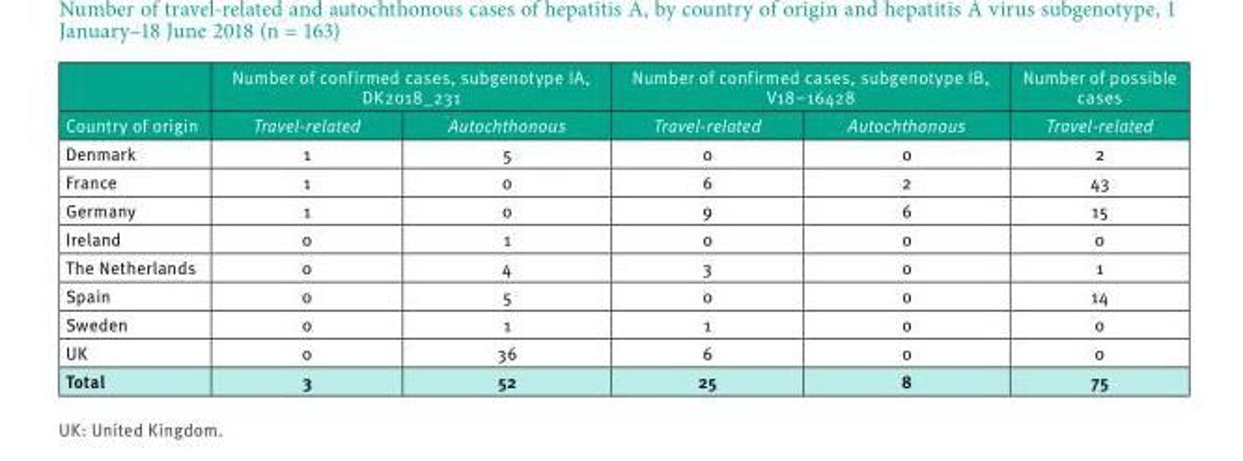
<table><thead><tr><td rowspan="2">Country of origin</td><td colspan="2">Number of confirmed cases, subgenotype IA, DK2018_231</td><td colspan="2">Number of confirmed cases, subgenotype IB, V18–16428</td><td rowspan="2">Number of possible cases Travel-related</td></tr><tr><td>Travel-related</td><td>Autochthonous</td><td>Travel-related</td><td>Autochthonous</td></tr></thead><tbody><tr><td>Denmark</td><td>1</td><td>5</td><td>0</td><td>0</td><td>2</td></tr><tr><td>France</td><td>1</td><td>0</td><td>6</td><td>2</td><td>43</td></tr><tr><td>Germany</td><td>1</td><td>0</td><td>9</td><td>6</td><td>15</td></tr><tr><td>Ireland</td><td>0</td><td>1</td><td>0</td><td>0</td><td>0</td></tr><tr><td>The Netherlands</td><td>0</td><td>4</td><td>3</td><td>0</td><td>1</td></tr><tr><td>Spain</td><td>0</td><td>5</td><td>0</td><td>0</td><td>14</td></tr><tr><td>Sweden</td><td>0</td><td>1</td><td>1</td><td>0</td><td>0</td></tr><tr><td>UK</td><td>0</td><td>36</td><td>6</td><td>0</td><td>0</td></tr><tr><td>Total</td><td>3</td><td>52</td><td>25</td><td>8</td><td>75</td></tr></tbody></table>